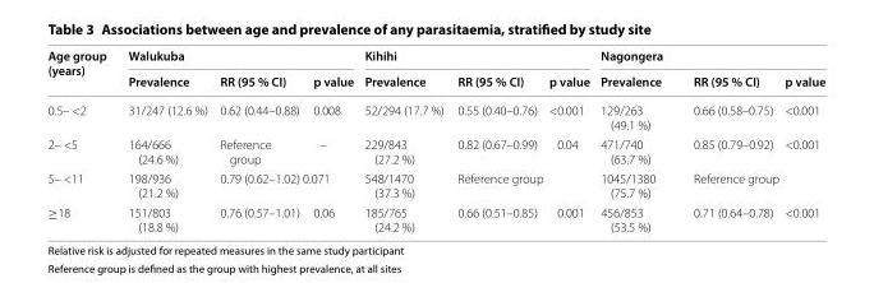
<table><thead><tr><td rowspan="2">Age group (years)</td><td colspan="3">Walukuba</td><td colspan="3">Kihihi</td><td colspan="3">Nagongera</td></tr><tr><td>Prevalence</td><td>RR (95 % CI)</td><td>p value</td><td>Prevalence</td><td>RR (95 % CI)</td><td>p value</td><td>Prevalence</td><td>RR (95 % CI)</td><td>p value</td></tr></thead><tbody><tr><td>0.5– &lt;2</td><td>31/247 (12.6 %)</td><td>0.62 (0.44–0.88)</td><td>0.008</td><td>52/294 (17.7 %)</td><td>0.55 (0.40–0.76)</td><td>&lt;0.001</td><td>129/263 (49.1 %)</td><td>0.66 (0.58–0.75)</td><td>&lt;0.001</td></tr><tr><td>2– &lt;5</td><td>164/666 (24.6 %)</td><td>Reference group</td><td>–</td><td>229/843 (27.2 %)</td><td>0.82 (0.67–0.99)</td><td>0.04</td><td>471/740 (63.7 %)</td><td>0.85 (0.79–0.92)</td><td>&lt;0.001</td></tr><tr><td>5– &lt;11</td><td>198/936 (21.2 %)</td><td colspan="2">0.79 (0.62–1.02) 0.071</td><td>548/1470 (37.3 %)</td><td colspan="2">Reference group</td><td>1045/1380 (75.7 %)</td><td colspan="2">Reference group</td></tr><tr><td>≥18</td><td>151/803 (18.8 %)</td><td>0.76 (0.57–1.01)</td><td>0.06</td><td>185/765 (24.2 %)</td><td>0.66 (0.51–0.85)</td><td>0.001</td><td>456/853 (53.5 %)</td><td>0.71 (0.64–0.78)</td><td>&lt;0.001</td></tr></tbody></table>